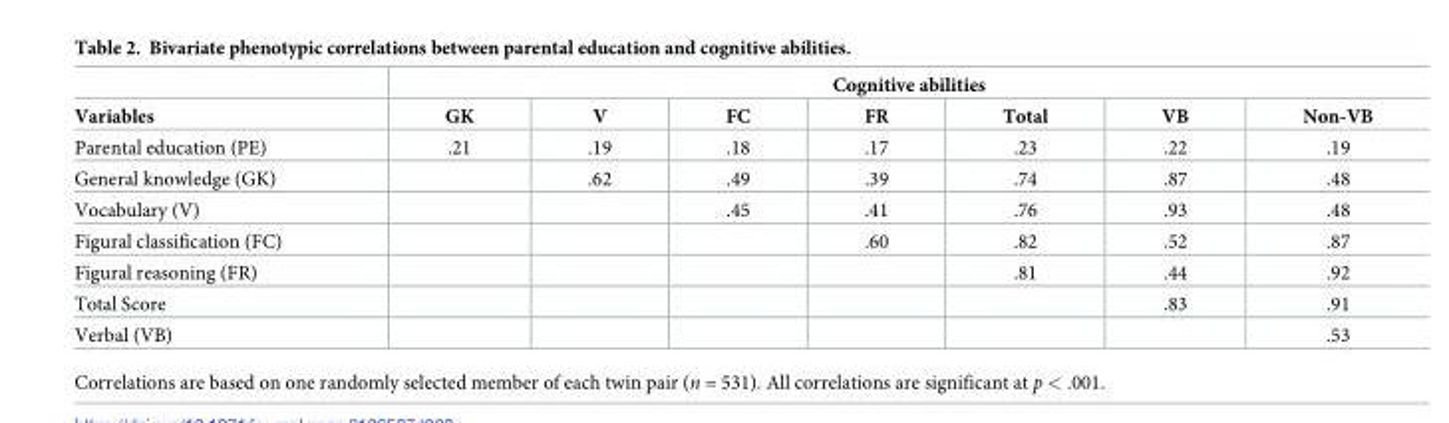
<table><thead><tr><td rowspan="2">Variables</td><td colspan="7">Cognitive abilities</td></tr><tr><td>GK</td><td>V</td><td>FC</td><td>FR</td><td>Total</td><td>VB</td><td>Non-VB</td></tr></thead><tbody><tr><td>Parental education (PE)</td><td>.21</td><td>.19</td><td>.18</td><td>.17</td><td>.23</td><td>.22</td><td>.19</td></tr><tr><td>General knowledge (GK)</td><td></td><td>.62</td><td>.49</td><td>.39</td><td>.74</td><td>.87</td><td>.48</td></tr><tr><td>Vocabulary (V)</td><td></td><td></td><td>.45</td><td>.41</td><td>.76</td><td>.93</td><td>.48</td></tr><tr><td>Figural classification (FC)</td><td></td><td></td><td></td><td>.60</td><td>.82</td><td>.52</td><td>.87</td></tr><tr><td>Figural reasoning (FR)</td><td></td><td></td><td></td><td></td><td>.81</td><td>.44</td><td>.92</td></tr><tr><td>Total Score</td><td></td><td></td><td></td><td></td><td></td><td>.83</td><td>.91</td></tr><tr><td>Verbal (VB)</td><td></td><td></td><td></td><td></td><td></td><td></td><td>.53</td></tr></tbody></table>